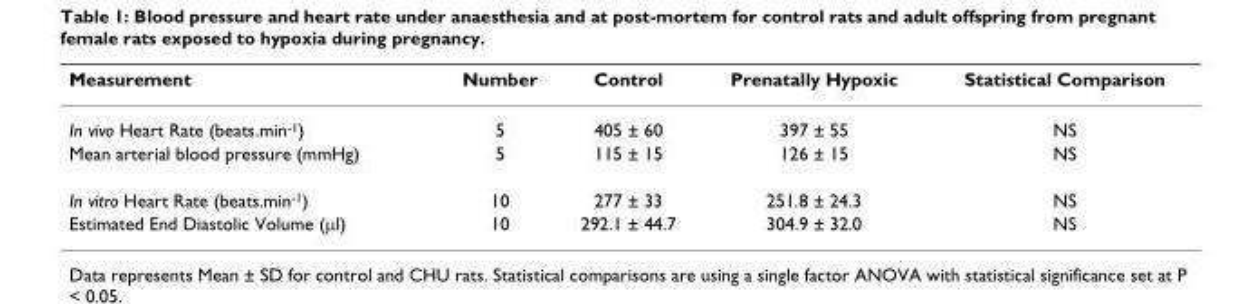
<table><thead><tr><td>Measurement</td><td>Number</td><td>Control</td><td>Prenatally Hypoxic</td><td>Statistical Comparison</td></tr></thead><tbody><tr><td>In vivo Heart Rate (beats.min<sup>-1</sup>)</td><td>5</td><td>405 ± 60</td><td>397 ± 55</td><td>NS</td></tr><tr><td>Mean arterial blood pressure (mmHg)</td><td>5</td><td>115 ± 15</td><td>126 ± 15</td><td>NS</td></tr><tr><td>In vitro Heart Rate (beats.min<sup>-1</sup>)</td><td>10</td><td>277 ± 33</td><td>251.8 ± 24.3</td><td>NS</td></tr><tr><td>Estimated End Diastolic Volume (μl)</td><td>10</td><td>292.1 ± 44.7</td><td>304.9 ± 32.0</td><td>NS</td></tr></tbody></table>